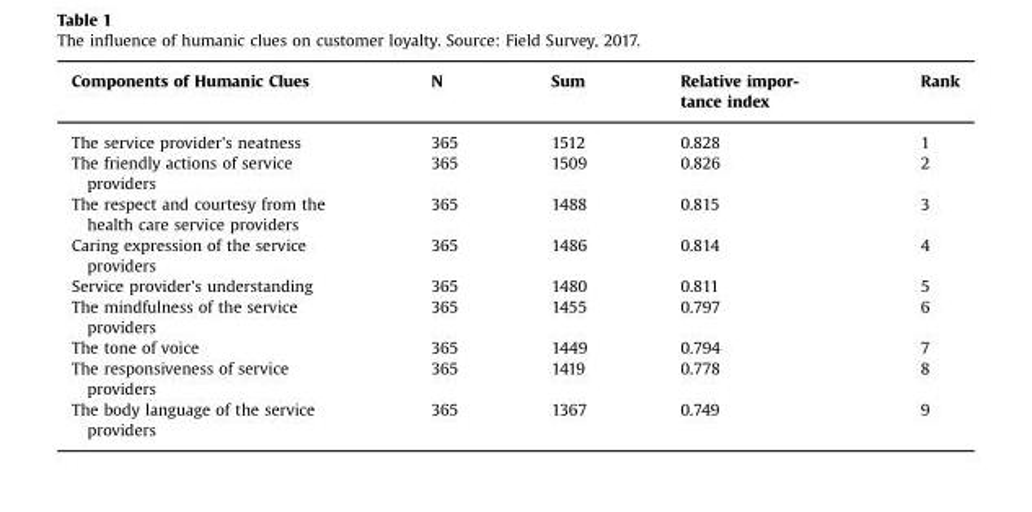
<table><thead><tr><td>Components of Humanic Clues</td><td>N</td><td>Sum</td><td>Relative impor- tance index</td><td>Rank</td></tr></thead><tbody><tr><td>The service provider&#x27;s neatness</td><td>365</td><td>1512</td><td>0.828</td><td>1</td></tr><tr><td>The friendly actions of service providers</td><td>365</td><td>1509</td><td>0.826</td><td>2</td></tr><tr><td>The respect and courtesy from the health care service providers</td><td>365</td><td>1488</td><td>0.815</td><td>3</td></tr><tr><td>Caring expression of the service providers</td><td>365</td><td>1486</td><td>0.814</td><td>4</td></tr><tr><td>Service provider&#x27;s understanding</td><td>365</td><td>1480</td><td>0.811</td><td>5</td></tr><tr><td>The mindfulness of the service providers</td><td>365</td><td>1455</td><td>0.797</td><td>6</td></tr><tr><td>The tone of voice</td><td>365</td><td>1449</td><td>0.794</td><td>7</td></tr><tr><td>The responsiveness of service providers</td><td>365</td><td>1419</td><td>0.778</td><td>8</td></tr><tr><td>The body language of the service providers</td><td>365</td><td>1367</td><td>0.749</td><td>9</td></tr></tbody></table>